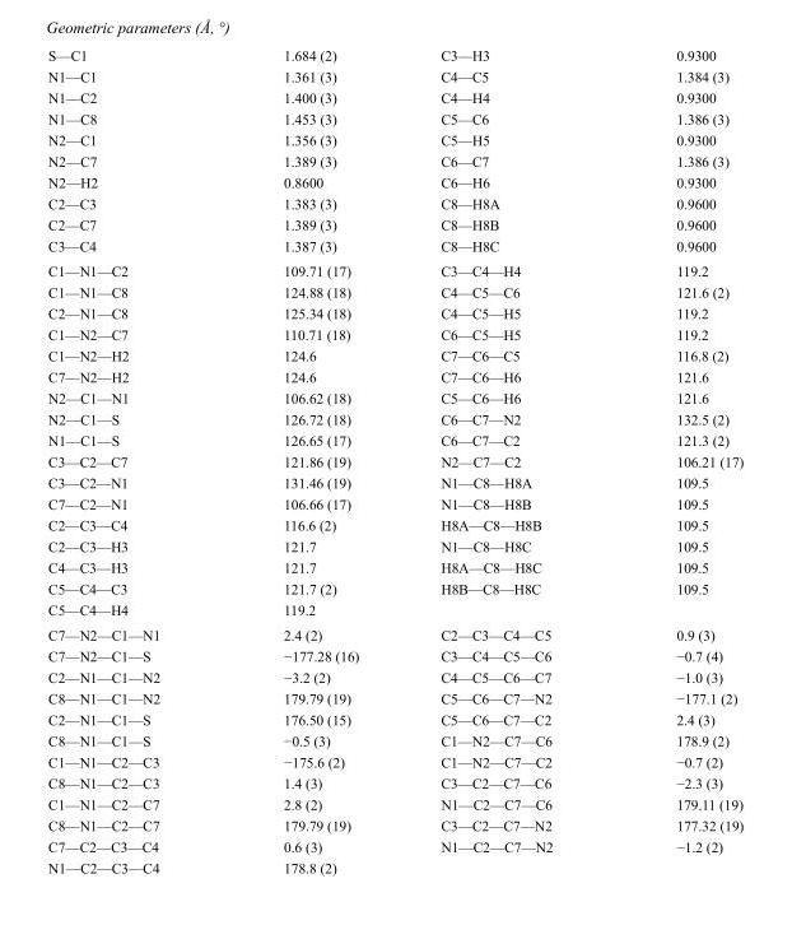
<table><tbody><tr><td>S—C1</td><td>1.684 (2)</td><td>C3—H3</td><td>0.9300</td></tr><tr><td>N1—C1</td><td>1.361 (3)</td><td>C4—C5</td><td>1.384 (3)</td></tr><tr><td>N1—C2</td><td>1.400 (3)</td><td>C4—H4</td><td>0.9300</td></tr><tr><td>N1—C8</td><td>1.453 (3)</td><td>C5—C6</td><td>1.386 (3)</td></tr><tr><td>N2—C1</td><td>1.356 (3)</td><td>C5—H5</td><td>0.9300</td></tr><tr><td>N2—C7</td><td>1.389 (3)</td><td>C6—C7</td><td>1.386 (3)</td></tr><tr><td>N2—H2</td><td>0.8600</td><td>C6—H6</td><td>0.9300</td></tr><tr><td>C2—C3</td><td>1.383 (3)</td><td>C8—H8A</td><td>0.9600</td></tr><tr><td>C2—C7</td><td>1.389 (3)</td><td>C8—H8B</td><td>0.9600</td></tr><tr><td>C3—C4</td><td>1.387 (3)</td><td>C8—H8C</td><td>0.9600</td></tr><tr><td>C1—N1—C2</td><td>109.71 (17)</td><td>C3—C4—H4</td><td>119.2</td></tr><tr><td>C1—N1—C8</td><td>124.88 (18)</td><td>C4—C5—C6</td><td>121.6 (2)</td></tr><tr><td>C2—N1—C8</td><td>125.34 (18)</td><td>C4—C5—H5</td><td>119.2</td></tr><tr><td>C1—N2—C7</td><td>110.71 (18)</td><td>C6—C5—H5</td><td>119.2</td></tr><tr><td>C1—N2—H2</td><td>124.6</td><td>C7—C6—C5</td><td>116.8 (2)</td></tr><tr><td>C7—N2—H2</td><td>124.6</td><td>C7—C6—H6</td><td>121.6</td></tr><tr><td>N2—C1—N1</td><td>106.62 (18)</td><td>C5—C6—H6</td><td>121.6</td></tr><tr><td>N2—C1—S</td><td>126.72 (18)</td><td>C6—C7—N2</td><td>132.5 (2)</td></tr><tr><td>N1—C1—S</td><td>126.65 (17)</td><td>C6—C7—C2</td><td>121.3 (2)</td></tr><tr><td>C3—C2—C7</td><td>121.86 (19)</td><td>N2—C7—C2</td><td>106.21 (17)</td></tr><tr><td>C3—C2—N1</td><td>131.46 (19)</td><td>N1—C8—H8A</td><td>109.5</td></tr><tr><td>C7—C2—N1</td><td>106.66 (17)</td><td>N1—C8—H8B</td><td>109.5</td></tr><tr><td>C2—C3—C4</td><td>116.6 (2)</td><td>H8A—C8—H8B</td><td>109.5</td></tr><tr><td>C2—C3—H3</td><td>121.7</td><td>N1—C8—H8C</td><td>109.5</td></tr><tr><td>C4—C3—H3</td><td>121.7</td><td>H8A—C8—H8C</td><td>109.5</td></tr><tr><td>C5—C4—C3</td><td>121.7 (2)</td><td>H8B—C8—H8C</td><td>109.5</td></tr><tr><td>C5—C4—H4</td><td>119.2</td><td></td><td></td></tr><tr><td>C7—N2—C1—N1</td><td>2.4 (2)</td><td>C2—C3—C4—C5</td><td>0.9 (3)</td></tr><tr><td>C7—N2—C1—S</td><td>−177.28 (16)</td><td>C3—C4—C5—C6</td><td>−0.7 (4)</td></tr><tr><td>C2—N1—C1—N2</td><td>−3.2 (2)</td><td>C4—C5—C6—C7</td><td>−1.0 (3)</td></tr><tr><td>C8—N1—C1—N2</td><td>179.79 (19)</td><td>C5—C6—C7—N2</td><td>−177.1 (2)</td></tr><tr><td>C2—N1—C1—S</td><td>176.50 (15)</td><td>C5—C6—C7—C2</td><td>2.4 (3)</td></tr><tr><td>C8—N1—C1—S</td><td>−0.5 (3)</td><td>C1—N2—C7—C6</td><td>178.9 (2)</td></tr><tr><td>C1—N1—C2—C3</td><td>−175.6 (2)</td><td>C1—N2—C7—C2</td><td>−0.7 (2)</td></tr><tr><td>C8—N1—C2—C3</td><td>1.4 (3)</td><td>C3—C2—C7—C6</td><td>−2.3 (3)</td></tr><tr><td>C1—N1—C2—C7</td><td>2.8 (2)</td><td>N1—C2—C7—C6</td><td>179.11 (19)</td></tr><tr><td>C8—N1—C2—C7</td><td>179.79 (19)</td><td>C3—C2—C7—N2</td><td>177.32 (19)</td></tr><tr><td>C7—C2—C3—C4</td><td>0.6 (3)</td><td>N1—C2—C7—N2</td><td>−1.2 (2)</td></tr><tr><td>N1—C2—C3—C4</td><td>178.8 (2)</td><td></td><td></td></tr></tbody></table>